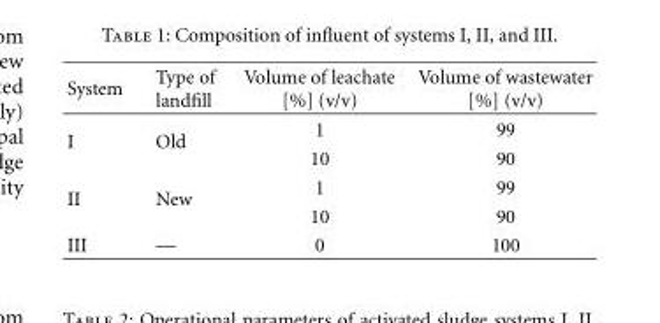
<table><thead><tr><td>System</td><td>Type of landfill</td><td>Volume of leachate [%] (v/v)</td><td>Volume of wastewater [%] (v/v)</td></tr></thead><tbody><tr><td rowspan="2">I</td><td rowspan="2">Old</td><td>1</td><td>99</td></tr><tr><td>10</td><td>90</td></tr><tr><td rowspan="2">II</td><td rowspan="2">New</td><td>1</td><td>99</td></tr><tr><td>10</td><td>90</td></tr><tr><td>III</td><td>—</td><td>0</td><td>100</td></tr></tbody></table>